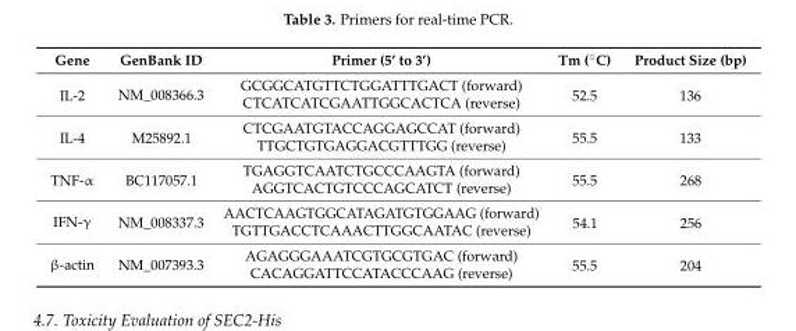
<table><thead><tr><td>Gene</td><td>GenBank ID</td><td>Primer (5’ to 3’)</td><td>Tm (˝C)</td><td>Product Size (bp)</td></tr></thead><tbody><tr><td rowspan="2">IL-2</td><td rowspan="2">NM_008366.3</td><td>GCGGCATGTTCTGGATTTGACT (forward)</td><td rowspan="2">52.5</td><td rowspan="2">136</td></tr><tr><td>CTCATCATCGAATTGGCACTCA (reverse)</td></tr><tr><td rowspan="2">IL-4</td><td rowspan="2">M25892.1</td><td>CTCGAATGTACCAGGAGCCAT (forward)</td><td rowspan="2">55.5</td><td rowspan="2">133</td></tr><tr><td>TTGCTGTGAGGACGTTTGG (reverse)</td></tr><tr><td rowspan="2">TNF-α</td><td rowspan="2">BC117057.1</td><td>TGAGGTCAATCTGCCCAAGTA (forward)</td><td rowspan="2">55.5</td><td rowspan="2">268</td></tr><tr><td>AGGTCACTGTCCCAGCATCT (reverse)</td></tr><tr><td rowspan="2">IFN-γ</td><td rowspan="2">NM_008337.3</td><td>AACTCAAGTGGCATAGATGTGGAAG (forward)</td><td rowspan="2">54.1</td><td rowspan="2">256</td></tr><tr><td>TGTTGACCTCAAACTTGGCAATAC (reverse)</td></tr><tr><td rowspan="2">β-actin</td><td rowspan="2">NM_007393.3</td><td>AGAGGGAAATCGTGCGTGAC (forward)</td><td rowspan="2">55.5</td><td rowspan="2">204</td></tr><tr><td>CACAGGATTCCATACCCAAG (reverse)</td></tr></tbody></table>